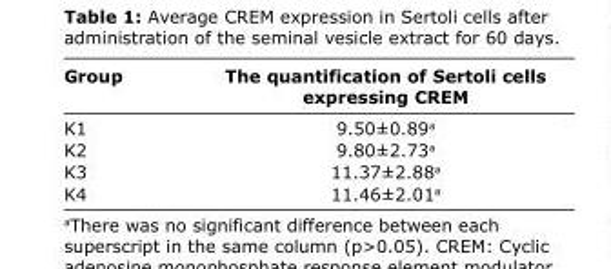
<table><thead><tr><td>Group</td><td>The quantification of Sertoli cells expressing CREM</td></tr></thead><tbody><tr><td>K1</td><td>9.50±0.89<sup>a</sup></td></tr><tr><td>K2</td><td>9.80±2.73<sup>a</sup></td></tr><tr><td>K3</td><td>11.37±2.88<sup>a</sup></td></tr><tr><td>K4</td><td>11.46±2.01<sup>a</sup></td></tr></tbody></table>